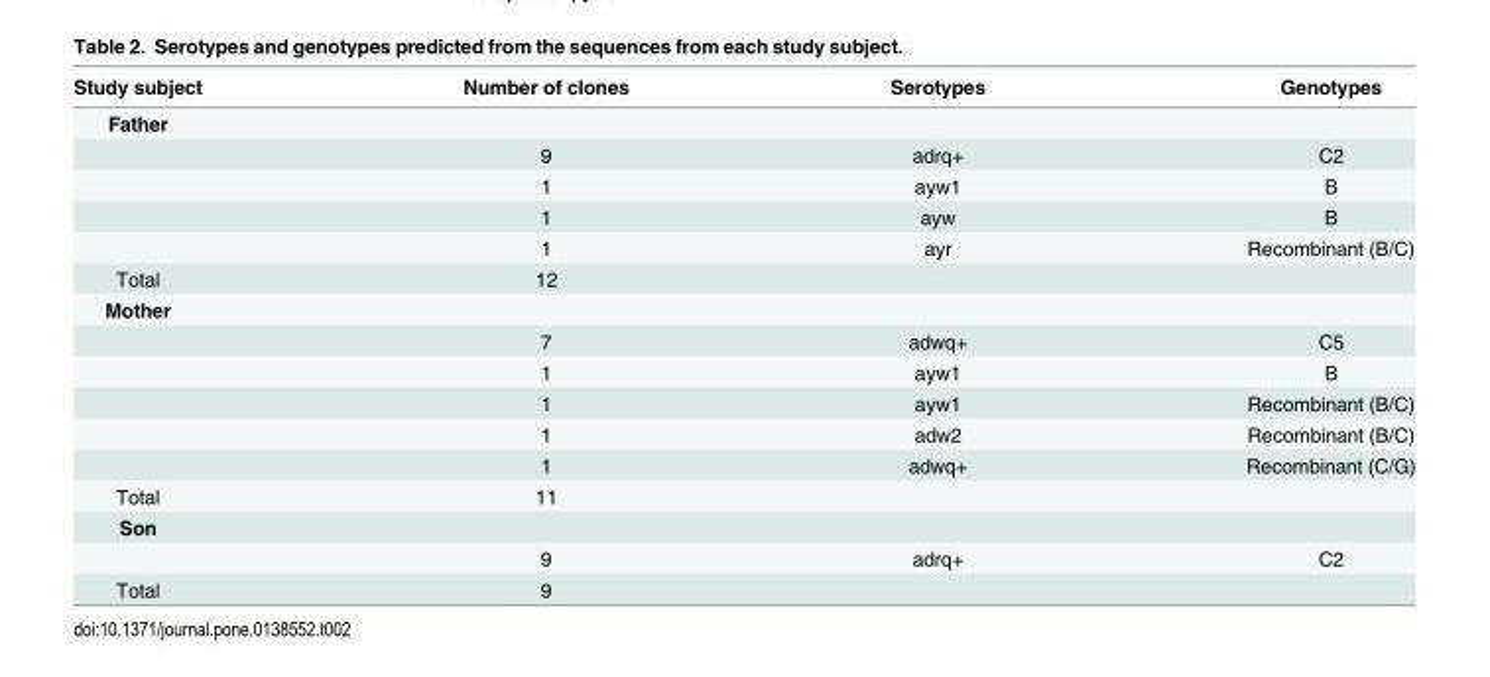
<table><thead><tr><td>Study subject</td><td>Number of clones</td><td>Serotypes</td><td>Genotypes</td></tr></thead><tbody><tr><td colspan="4">Father</td></tr><tr><td></td><td>9</td><td>adrq+</td><td>C2</td></tr><tr><td></td><td>1</td><td>ayw1</td><td>B</td></tr><tr><td></td><td>1</td><td>ayw</td><td>B</td></tr><tr><td></td><td>1</td><td>ayr</td><td>Recombinant (B/C)</td></tr><tr><td>Total</td><td>12</td><td></td><td></td></tr><tr><td colspan="4">Mother</td></tr><tr><td></td><td>7</td><td>adwq+</td><td>C5</td></tr><tr><td></td><td>1</td><td>ayw1</td><td>B</td></tr><tr><td></td><td>1</td><td>ayw1</td><td>Recombinant (B/C)</td></tr><tr><td></td><td>1</td><td>adw2</td><td>Recombinant (B/C)</td></tr><tr><td></td><td>1</td><td>adwq+</td><td>Recombinant (C/G)</td></tr><tr><td>Total</td><td>11</td><td></td><td></td></tr><tr><td colspan="4">Son</td></tr><tr><td></td><td>9</td><td>adrq+</td><td>C2</td></tr><tr><td>Total</td><td>9</td><td></td><td></td></tr></tbody></table>